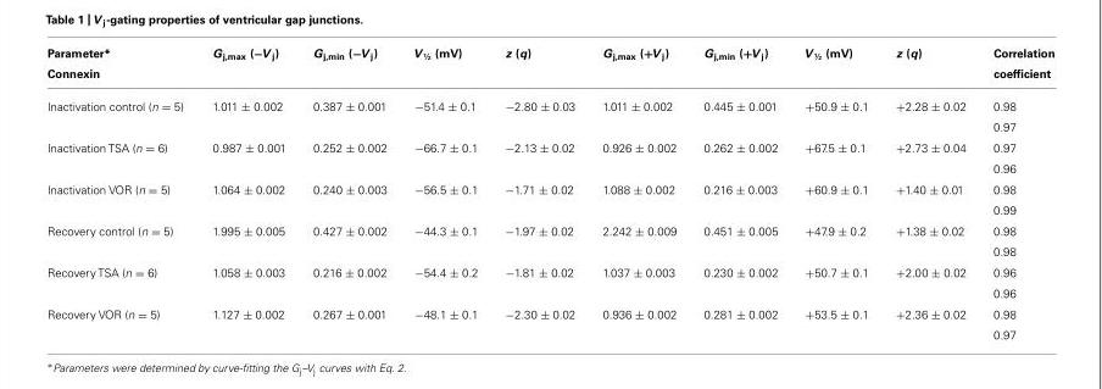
<table><thead><tr><td>Parameter* Connexin</td><td>G<sub>j,max</sub> (−V <sub>j</sub>)</td><td>G<sub>j,min</sub> (−V <sub>j</sub>)</td><td>V <sub>½</sub> (mV)</td><td>z (q)</td><td>G<sub>j,max</sub> (+V <sub>j</sub>)</td><td>G<sub>j,min</sub> (+V <sub>j</sub>)</td><td>V <sub>½</sub> (mV)</td><td>z (q)</td><td>Correlation coefficient</td></tr></thead><tbody><tr><td>Inactivation control (n = 5)</td><td>1.011 ± 0.002</td><td>0.387 ± 0.001</td><td>−51.4 ± 0.1</td><td>−2.80 ± 0.03</td><td>1.011 ± 0.002</td><td>0.445 ± 0.001</td><td>+50.9 ± 0.1</td><td>+2.28 ± 0.02</td><td>0.98 0.97</td></tr><tr><td>Inactivation TSA (n = 6)</td><td>0.987 ± 0.001</td><td>0.252 ± 0.002</td><td>−66.7 ± 0.1</td><td>−2.13 ± 0.02</td><td>0.926 ± 0.002</td><td>0.262 ± 0.002</td><td>+67.5 ± 0.1</td><td>+2.73 ± 0.04</td><td>0.97 0.96</td></tr><tr><td>Inactivation VOR (n = 5)</td><td>1.064 ± 0.002</td><td>0.240 ± 0.003</td><td>−56.5 ± 0.1</td><td>−1.71 ± 0.02</td><td>1.088 ± 0.002</td><td>0.216 ± 0.003</td><td>+60.9 ± 0.1</td><td>+1.40 ± 0.01</td><td>0.98 0.99</td></tr><tr><td>Recovery control (n = 5)</td><td>1.995 ± 0.005</td><td>0.427 ± 0.002</td><td>−44.3 ± 0.1</td><td>−1.97 ± 0.02</td><td>2.242 ± 0.009</td><td>0.451 ± 0.005</td><td>+47.9 ± 0.2</td><td>+1.38 ± 0.02</td><td>0.98 0.98</td></tr><tr><td>Recovery TSA (n = 6)</td><td>1.058 ± 0.003</td><td>0.216 ± 0.002</td><td>−54.4 ± 0.2</td><td>−1.81 ± 0.02</td><td>1.037 ± 0.003</td><td>0.230 ± 0.002</td><td>+50.7 ± 0.1</td><td>+2.00 ± 0.02</td><td>0.96 0.96</td></tr><tr><td>Recovery VOR (n = 5)</td><td>1.127 ± 0.002</td><td>0.267 ± 0.001</td><td>−48.1 ± 0.1</td><td>−2.30 ± 0.02</td><td>0.936 ± 0.002</td><td>0.281 ± 0.002</td><td>+53.5 ± 0.1</td><td>+2.36 ± 0.02</td><td>0.98 0.97</td></tr></tbody></table>